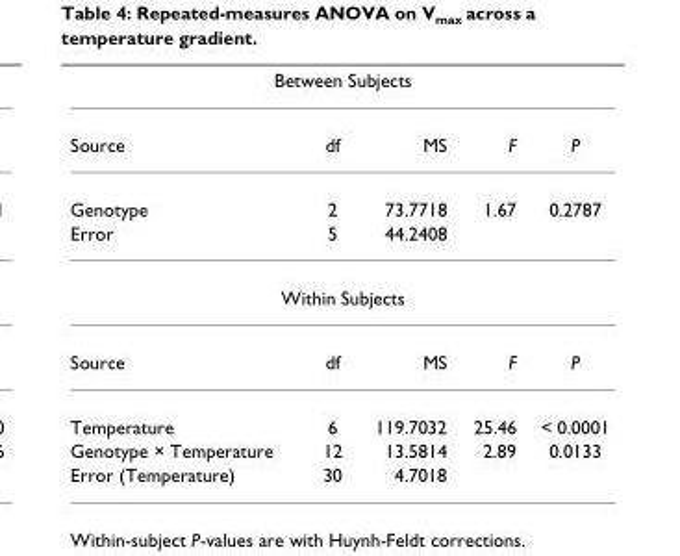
<table><thead><tr><td colspan="5">Between Subjects</td></tr><tr><td>Source</td><td>df</td><td>MS</td><td>F</td><td>P</td></tr></thead><tbody><tr><td>Genotype</td><td>2</td><td>73.7718</td><td>1.67</td><td>0.2787</td></tr><tr><td>Error</td><td>5</td><td>44.2408</td><td></td><td></td></tr><tr><td colspan="5">Within Subjects</td></tr><tr><td>Source</td><td>df</td><td>MS</td><td>F</td><td>P</td></tr><tr><td>Temperature</td><td>6</td><td>119.7032</td><td>25.46</td><td>&lt; 0.0001</td></tr><tr><td>Genotype × Temperature</td><td>12</td><td>13.5814</td><td>2.89</td><td>0.0133</td></tr><tr><td>Error (Temperature)</td><td>30</td><td>4.7018</td><td></td><td></td></tr></tbody></table>